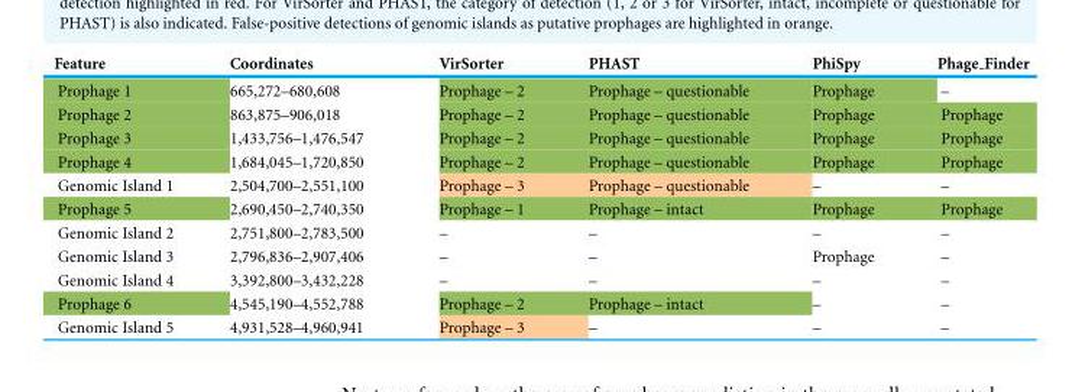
<table><thead><tr><td>Feature</td><td>Coordinates</td><td>VirSorter</td><td>PHAST</td><td>PhiSpy</td><td>Phage Finder</td></tr></thead><tbody><tr><td>Prophage 1</td><td>665,272–680,608</td><td>Prophage – 2</td><td>Prophage – questionable</td><td>Prophage</td><td>–</td></tr><tr><td>Prophage 2</td><td>863,875–906,018</td><td>Prophage – 2</td><td>Prophage – questionable</td><td>Prophage</td><td>Prophage</td></tr><tr><td>Prophage 3</td><td>1,433,756–1,476,547</td><td>Prophage – 2</td><td>Prophage – questionable</td><td>Prophage</td><td>Prophage</td></tr><tr><td>Prophage 4</td><td>1,684,045–1,720,850</td><td>Prophage – 2</td><td>Prophage – questionable</td><td>Prophage</td><td>Prophage</td></tr><tr><td>Genomic Island 1</td><td>2,504,700–2,551,100</td><td>Prophage – 3</td><td>Prophage – questionable</td><td>–</td><td>–</td></tr><tr><td>Prophage 5</td><td>2,690,450–2,740,350</td><td>Prophage – 1</td><td>Prophage – intact</td><td>Prophage</td><td>Prophage</td></tr><tr><td>Genomic Island 2</td><td>2,751,800–2,783,500</td><td>–</td><td>–</td><td>–</td><td>–</td></tr><tr><td>Genomic Island 3</td><td>2,796,836–2,907,406</td><td>–</td><td>–</td><td>Prophage</td><td>–</td></tr><tr><td>Genomic Island 4</td><td>3,392,800–3,432,228</td><td>–</td><td>–</td><td>–</td><td>–</td></tr><tr><td>Prophage 6</td><td>4,545,190–4,552,788</td><td>Prophage – 2</td><td>Prophage – intact</td><td>–</td><td>–</td></tr><tr><td>Genomic Island 5</td><td>4,931,528–4,960,941</td><td>Prophage – 3</td><td>–</td><td>–</td><td>–</td></tr></tbody></table>